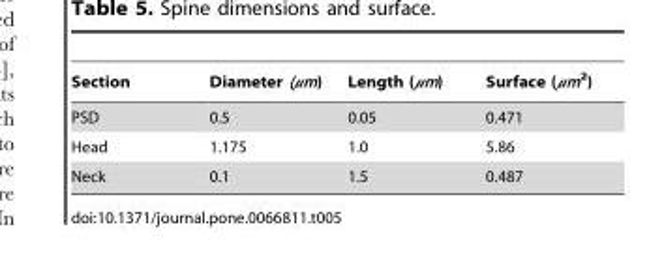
<table><thead><tr><td>Section</td><td>Diameter (μm)</td><td>Length (μm)</td><td>Surface (μm<sup>2</sup>)</td></tr></thead><tbody><tr><td>PSD</td><td>0.5</td><td>0.05</td><td>0.471</td></tr><tr><td>Head</td><td>1.175</td><td>1.0</td><td>5.86</td></tr><tr><td>Neck</td><td>0.1</td><td>1.5</td><td>0.487</td></tr></tbody></table>